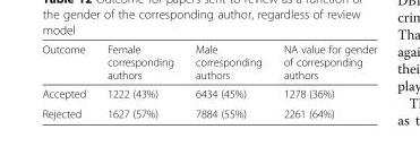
<table><thead><tr><td>Outcome</td><td>Female corresponding authors</td><td>Male corresponding authors</td><td>NA value for gender of corresponding authors</td></tr></thead><tbody><tr><td>Accepted</td><td>1222 (43%)</td><td>6434 (45%)</td><td>1278 (36%)</td></tr><tr><td>Rejected</td><td>1627 (57%)</td><td>7884 (55%)</td><td>2261 (64%)</td></tr></tbody></table>